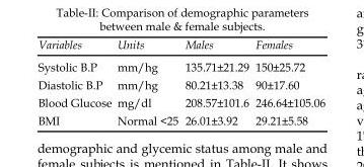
<table><thead><tr><td>Variables</td><td>Units</td><td>Males</td><td>Females</td></tr></thead><tbody><tr><td>Systolic B.P</td><td>mm/hg</td><td>135.71±21.29</td><td>150±25.72</td></tr><tr><td>Diastolic B.P</td><td>mm/hg</td><td>80.21±13.38</td><td>90±17.60</td></tr><tr><td>Blood Glucose</td><td>mg/dl</td><td>208.57±101.6</td><td>246.64±105.06</td></tr><tr><td>BMI</td><td>Normal &lt;25</td><td>26.01±3.92</td><td>29.21±5.58</td></tr></tbody></table>